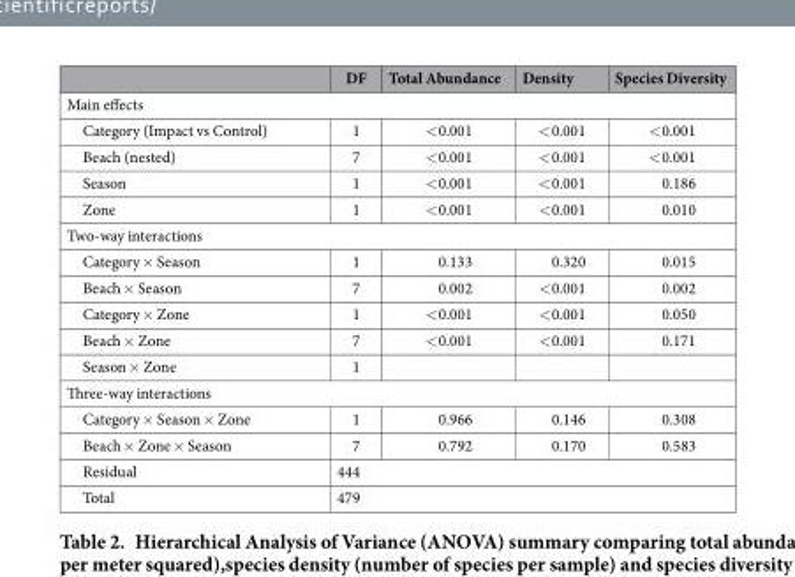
<table><thead><tr><td></td><td>DF</td><td>Total Abundance</td><td>Density</td><td>Species Diversity</td></tr></thead><tbody><tr><td colspan="5">Main effects</td></tr><tr><td>Category (Impact vs Control)</td><td>1</td><td>&lt; 0.001</td><td>&lt; 0.001</td><td>&lt; 0.001</td></tr><tr><td>Beach (nested)</td><td>7</td><td>&lt; 0.001</td><td>&lt; 0.001</td><td>&lt; 0.001</td></tr><tr><td>Season</td><td>1</td><td>&lt; 0.001</td><td>&lt; 0.001</td><td>0.186</td></tr><tr><td>Zone</td><td>1</td><td>&lt; 0.001</td><td>&lt; 0.001</td><td>0.010</td></tr><tr><td colspan="5">Two-way interactions</td></tr><tr><td>Category × Season</td><td>1</td><td>0.133</td><td>0.320</td><td>0.015</td></tr><tr><td>Beach × Season</td><td>7</td><td>0.002</td><td>&lt; 0.001</td><td>0.002</td></tr><tr><td>Category × Zone</td><td>1</td><td>&lt; 0.001</td><td>&lt; 0.001</td><td>0.050</td></tr><tr><td>Beach × Zone</td><td>7</td><td>&lt; 0.001</td><td>&lt; 0.001</td><td>0.171</td></tr><tr><td>Season × Zone</td><td>1</td><td></td><td></td><td></td></tr><tr><td colspan="5">Three-way interactions</td></tr><tr><td>Category × Season × Zone</td><td>1</td><td>0.966</td><td>0.146</td><td>0.308</td></tr><tr><td>Beach × Zone × Season</td><td>7</td><td>0.792</td><td>0.170</td><td>0.583</td></tr><tr><td>Residual</td><td colspan="4">444</td></tr><tr><td>Total</td><td colspan="4">479</td></tr></tbody></table>